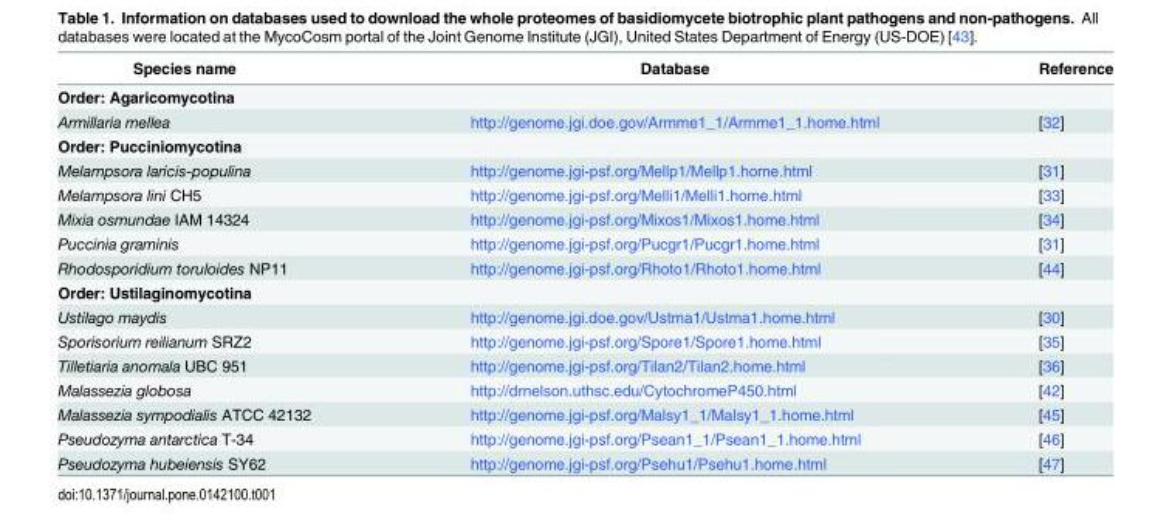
<table><thead><tr><td>Species name</td><td>Database</td><td>Reference</td></tr></thead><tbody><tr><td colspan="3">Order: Agaricomycotina</td></tr><tr><td>Armillaria mellea</td><td>http://genome.jgi.doe.gov/Armme1_1/Armme1_1.home.html</td><td>[32]</td></tr><tr><td colspan="3">Order: Pucciniomycotina</td></tr><tr><td>Melampsora laricis-populina</td><td>http://genome.jgi-psf.org/Mellp1/Mellp1.home.html</td><td>[31]</td></tr><tr><td>Melampsora lini CH5</td><td>http://genome.jgi-psf.org/Melli1/Melli1.home.html</td><td>[33]</td></tr><tr><td>Mixia osmundae IAM 14324</td><td>http://genome.jgi-psf.org/Mixos1/Mixos1.home.html</td><td>[34]</td></tr><tr><td>Puccinia graminis</td><td>http://genome.jgi-psf.org/Pucgr1/Pucgr1.home.html</td><td>[31]</td></tr><tr><td>Rhodosporidium toruloides NP11</td><td>http://genome.jgi-psf.org/Rhoto1/Rhoto1.home.html</td><td>[44]</td></tr><tr><td colspan="3">Order: Ustilaginomycotina</td></tr><tr><td>Ustilago maydis</td><td>http://genome.jgi.doe.gov/Ustma1/Ustma1.home.html</td><td>[30]</td></tr><tr><td>Sporisorium reilianum SRZ2</td><td>http://genome.jgi-psf.org/Spore1/Spore1.home.html</td><td>[35]</td></tr><tr><td>Tilletiaria anomala UBC 951</td><td>http://genome.jgi-psf.org/Tilan2/Tilan2.home.html</td><td>[36]</td></tr><tr><td>Malassezia globosa</td><td>http://drnelson.uthsc.edu/CytochromeP450.html</td><td>[42]</td></tr><tr><td>Malassezia sympodialis ATCC 42132</td><td>http://genome.jgi-psf.org/Malsy1_1/Malsy1_1.home.html</td><td>[45]</td></tr><tr><td>Pseudozyma antarctica T-34</td><td>http://genome.jgi-psf.org/Psean1_1/Psean1_1.home.html</td><td>[46]</td></tr><tr><td>Pseudozyma hubeiensis SY62</td><td>http://genome.jgi-psf.org/Psehu1/Psehu1.home.html</td><td>[47]</td></tr></tbody></table>